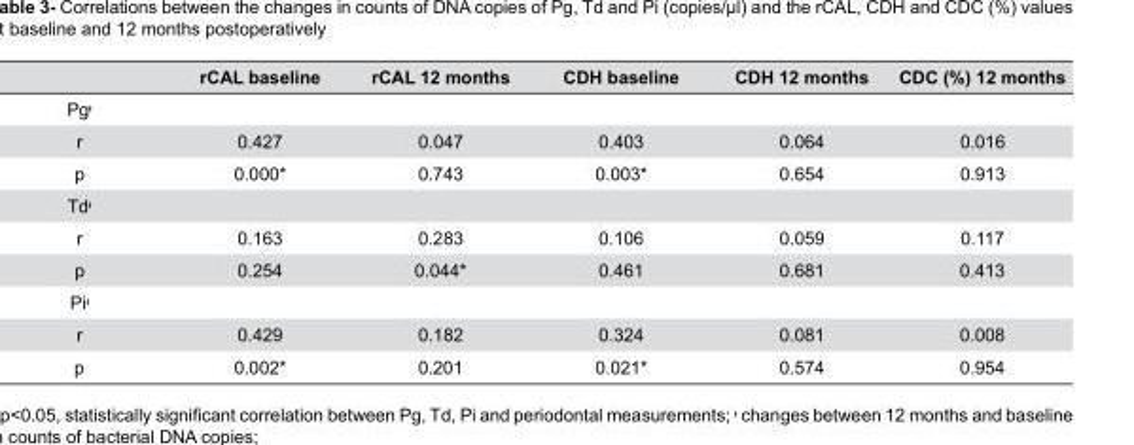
<table><thead><tr><td></td><td>rCAL baseline</td><td>rCAL 12 months</td><td>CDH baseline</td><td>CDH 12 months</td><td>CDC (%) 12 months</td></tr></thead><tbody><tr><td colspan="6">Pgᶧ</td></tr><tr><td>r</td><td>0.427</td><td>0.047</td><td>0.403</td><td>0.064</td><td>0.016</td></tr><tr><td>p</td><td>0.000*</td><td>0.743</td><td>0.003*</td><td>0.654</td><td>0.913</td></tr><tr><td colspan="6">Tdᶧ</td></tr><tr><td>r</td><td>0.163</td><td>0.283</td><td>0.106</td><td>0.059</td><td>0.117</td></tr><tr><td>p</td><td>0.254</td><td>0.044*</td><td>0.461</td><td>0.681</td><td>0.413</td></tr><tr><td colspan="6">Piᶧ</td></tr><tr><td>r</td><td>0.429</td><td>0.182</td><td>0.324</td><td>0.081</td><td>0.008</td></tr><tr><td>p</td><td>0.002*</td><td>0.201</td><td>0.021*</td><td>0.574</td><td>0.954</td></tr></tbody></table>